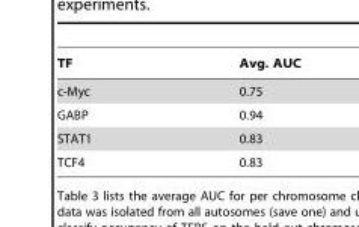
<table><thead><tr><td>TF</td><td>Avg. AUC</td></tr></thead><tbody><tr><td>c-Myc</td><td>0.75</td></tr><tr><td>GABP</td><td>0.94</td></tr><tr><td>STAT1</td><td>0.83</td></tr><tr><td>TCF4</td><td>0.83</td></tr></tbody></table>